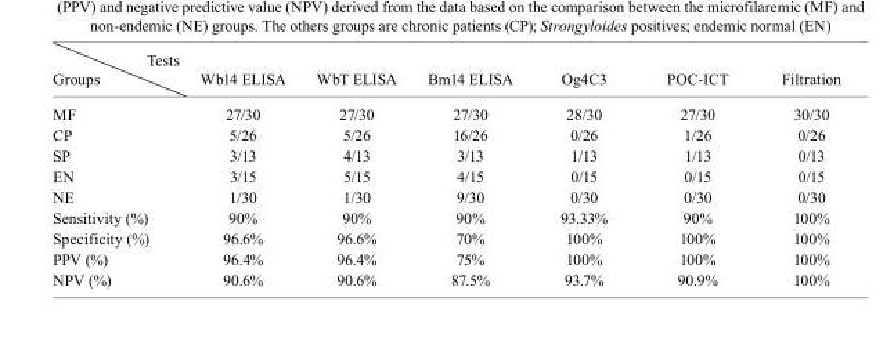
<table><thead><tr><td>Tests Groups</td><td>Wb14 ELISA</td><td>WbT ELISA</td><td>Bm14 ELISA</td><td>Og4C3</td><td>POC-ICT</td><td>Filtration</td></tr></thead><tbody><tr><td>MF</td><td>27/30</td><td>27/30</td><td>27/30</td><td>28/30</td><td>27/30</td><td>30/30</td></tr><tr><td>CP</td><td>5/26</td><td>5/26</td><td>16/26</td><td>0/26</td><td>1/26</td><td>0/26</td></tr><tr><td>SP</td><td>3/13</td><td>4/13</td><td>3/13</td><td>1/13</td><td>1/13</td><td>0/13</td></tr><tr><td>EN</td><td>3/15</td><td>5/15</td><td>4/15</td><td>0/15</td><td>0/15</td><td>0/15</td></tr><tr><td>NE</td><td>1/30</td><td>1/30</td><td>9/30</td><td>0/30</td><td>0/30</td><td>0/30</td></tr><tr><td>Sensitivity (%)</td><td>90%</td><td>90%</td><td>90%</td><td>93.33%</td><td>90%</td><td>100%</td></tr><tr><td>Specificity (%)</td><td>96.6%</td><td>96.6%</td><td>70%</td><td>100%</td><td>100%</td><td>100%</td></tr><tr><td>PPV (%)</td><td>96.4%</td><td>96.4%</td><td>75%</td><td>100%</td><td>100%</td><td>100%</td></tr><tr><td>NPV (%)</td><td>90.6%</td><td>90.6%</td><td>87.5%</td><td>93.7%</td><td>90.9%</td><td>100%</td></tr></tbody></table>